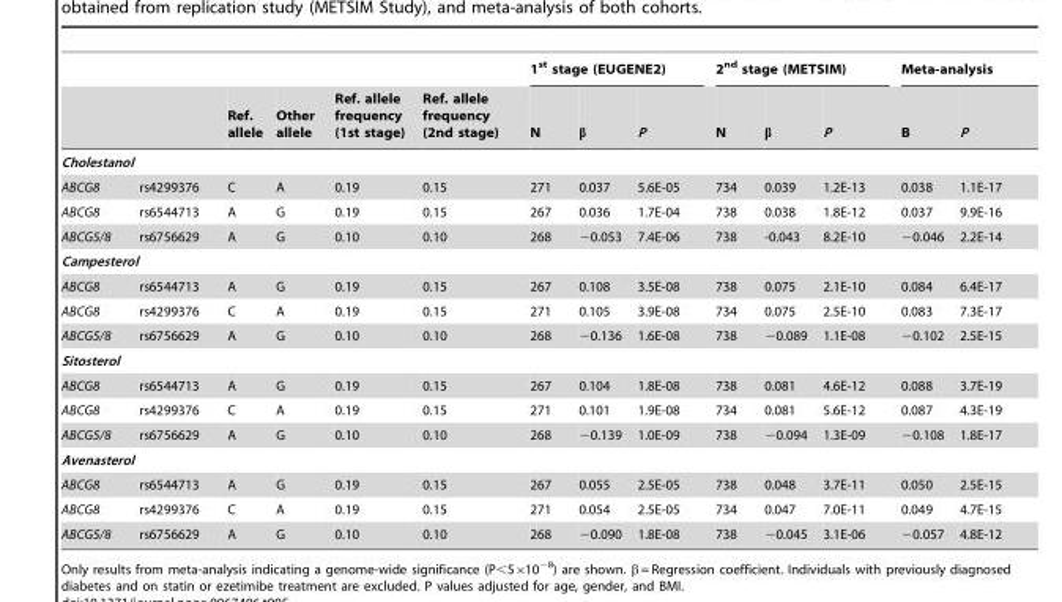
<table><thead><tr><td rowspan="2"></td><td rowspan="2"></td><td rowspan="2">Ref. allele</td><td rowspan="2">Other allele</td><td rowspan="2">Ref. allele frequency (1st stage)</td><td rowspan="2">Ref. allele frequency (2nd stage)</td><td colspan="3">1<sup>st</sup> stage (EUGENE2)</td><td colspan="3">2<sup>nd</sup> stage (METSIM)</td><td colspan="2">Meta-analysis</td></tr><tr><td>N</td><td>β</td><td>P</td><td>N</td><td>β</td><td>P</td><td>B</td><td>P</td></tr></thead><tbody><tr><td colspan="14">Cholestanol</td></tr><tr><td>ABCG8</td><td>rs4299376</td><td>C</td><td>A</td><td>0.19</td><td>0.15</td><td>271</td><td>0.037</td><td>5.6E-05</td><td>734</td><td>0.039</td><td>1.2E-13</td><td>0.038</td><td>1.1E-17</td></tr><tr><td>ABCG8</td><td>rs6544713</td><td>A</td><td>G</td><td>0.19</td><td>0.15</td><td>267</td><td>0.036</td><td>1.7E-04</td><td>738</td><td>0.038</td><td>1.8E-12</td><td>0.037</td><td>9.9E-16</td></tr><tr><td>ABCG5/8</td><td>rs6756629</td><td>A</td><td>G</td><td>0.10</td><td>0.10</td><td>268</td><td>−0.053</td><td>7.4E-06</td><td>738</td><td>-0.043</td><td>8.2E-10</td><td>−0.046</td><td>2.2E-14</td></tr><tr><td colspan="14">Campesterol</td></tr><tr><td>ABCG8</td><td>rs6544713</td><td>A</td><td>G</td><td>0.19</td><td>0.15</td><td>267</td><td>0.108</td><td>3.5E-08</td><td>738</td><td>0.075</td><td>2.1E-10</td><td>0.084</td><td>6.4E-17</td></tr><tr><td>ABCG8</td><td>rs4299376</td><td>C</td><td>A</td><td>0.19</td><td>0.15</td><td>271</td><td>0.105</td><td>3.9E-08</td><td>734</td><td>0.075</td><td>2.5E-10</td><td>0.083</td><td>7.3E-17</td></tr><tr><td>ABCG5/8</td><td>rs6756629</td><td>A</td><td>G</td><td>0.10</td><td>0.10</td><td>268</td><td>−0.136</td><td>1.6E-08</td><td>738</td><td>−0.089</td><td>1.1E-08</td><td>−0.102</td><td>2.5E-15</td></tr><tr><td colspan="14">Sitosterol</td></tr><tr><td>ABCG8</td><td>rs6544713</td><td>A</td><td>G</td><td>0.19</td><td>0.15</td><td>267</td><td>0.104</td><td>1.8E-08</td><td>738</td><td>0.081</td><td>4.6E-12</td><td>0.088</td><td>3.7E-19</td></tr><tr><td>ABCG8</td><td>rs4299376</td><td>C</td><td>A</td><td>0.19</td><td>0.15</td><td>271</td><td>0.101</td><td>1.9E-08</td><td>734</td><td>0.081</td><td>5.6E-12</td><td>0.087</td><td>4.3E-19</td></tr><tr><td>ABCG5/8</td><td>rs6756629</td><td>A</td><td>G</td><td>0.10</td><td>0.10</td><td>268</td><td>−0.139</td><td>1.0E-09</td><td>738</td><td>−0.094</td><td>1.3E-09</td><td>−0.108</td><td>1.8E-17</td></tr><tr><td colspan="14">Avenasterol</td></tr><tr><td>ABCG8</td><td>rs6544713</td><td>A</td><td>G</td><td>0.19</td><td>0.15</td><td>267</td><td>0.055</td><td>2.5E-05</td><td>738</td><td>0.048</td><td>3.7E-11</td><td>0.050</td><td>2.5E-15</td></tr><tr><td>ABCG8</td><td>rs4299376</td><td>C</td><td>A</td><td>0.19</td><td>0.15</td><td>271</td><td>0.054</td><td>2.5E-05</td><td>734</td><td>0.047</td><td>7.0E-11</td><td>0.049</td><td>4.7E-15</td></tr><tr><td>ABCG5/8</td><td>rs6756629</td><td>A</td><td>G</td><td>0.10</td><td>0.10</td><td>268</td><td>−0.090</td><td>1.8E-08</td><td>738</td><td>−0.045</td><td>3.1E-06</td><td>−0.057</td><td>4.8E-12</td></tr></tbody></table>